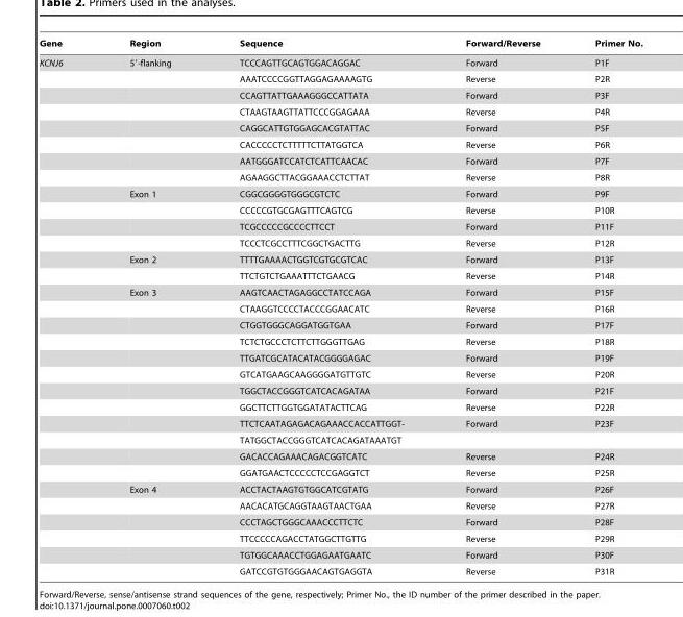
<table><thead><tr><td>Gene</td><td>Region</td><td>Sequence</td><td>Forward/Reverse</td><td>Primer No.</td></tr></thead><tbody><tr><td rowspan="32">KCNJ6</td><td>5′-flanking</td><td>TCCCAGTTGCAGTGGACAGGAC</td><td>Forward</td><td>P1F</td></tr><tr><td></td><td>AAATCCCCGGTTAGGAGAAAAGTG</td><td>Reverse</td><td>P2R</td></tr><tr><td></td><td>CCAGTTATTGAAAGGGCCATTATA</td><td>Forward</td><td>P3F</td></tr><tr><td></td><td>CTAAGTAAGTTATTCCCGGAGAAA</td><td>Reverse</td><td>P4R</td></tr><tr><td></td><td>CAGGCATTGTGGAGCACGTATTAC</td><td>Forward</td><td>P5F</td></tr><tr><td></td><td>CACCCCCTCTTTTTCTTATGGTCA</td><td>Reverse</td><td>P6R</td></tr><tr><td></td><td>AATGGGATCCATCTCATTCAACAC</td><td>Forward</td><td>P7F</td></tr><tr><td></td><td>AGAAGGCTTACGGAAACCTCTTAT</td><td>Reverse</td><td>P8R</td></tr><tr><td>Exon 1</td><td>CGGCGGGGTGGGCGTCTC</td><td>Forward</td><td>P9F</td></tr><tr><td></td><td>CCCCCGTGCGAGTTTCAGTCG</td><td>Reverse</td><td>P10R</td></tr><tr><td></td><td>TCGCCCCCGCCCCTTCCT</td><td>Forward</td><td>P11F</td></tr><tr><td></td><td>TCCCTCGCCTTTCGGCTGACTTG</td><td>Reverse</td><td>P12R</td></tr><tr><td>Exon 2</td><td>TTTTGAAAACTGGTCGTGCGTCAC</td><td>Forward</td><td>P13F</td></tr><tr><td></td><td>TTCTGTCTGAAATTTCTGAACG</td><td>Reverse</td><td>P14R</td></tr><tr><td>Exon 3</td><td>AAGTCAACTAGAGGCCTATCCAGA</td><td>Forward</td><td>P15F</td></tr><tr><td></td><td>CTAAGGTCCCCTACCCGGAACATC</td><td>Reverse</td><td>P16R</td></tr><tr><td></td><td>CTGGTGGGCAGGATGGTGAA</td><td>Forward</td><td>P17F</td></tr><tr><td></td><td>TCTCTGCCCTCTTCTTGGGTTGAG</td><td>Reverse</td><td>P18R</td></tr><tr><td></td><td>TTGATCGCATACATACGGGGAGAC</td><td>Forward</td><td>P19F</td></tr><tr><td></td><td>GTCATGAAGCAAGGGGATGTTGTC</td><td>Reverse</td><td>P20R</td></tr><tr><td></td><td>TGGCTACCGGGTCATCACAGATAA</td><td>Forward</td><td>P21F</td></tr><tr><td></td><td>GGCTTCTTGGTGGATATACTTCAG</td><td>Reverse</td><td>P22R</td></tr><tr><td></td><td>TTCTCAATAGAGACAGAAACCACCATTGGT-</td><td>Forward</td><td>P23F</td></tr><tr><td></td><td>TATGGCTACCGGGTCATCACAGATAAATGT</td><td></td><td></td></tr><tr><td></td><td>GACACCAGAAACAGACGGTCATC</td><td>Reverse</td><td>P24R</td></tr><tr><td></td><td>GGATGAACTCCCCCTCCGAGGTCT</td><td>Reverse</td><td>P25R</td></tr><tr><td>Exon 4</td><td>ACCTACTAAGTGTGGCATCGTATG</td><td>Forward</td><td>P26F</td></tr><tr><td></td><td>AACACATGCAGGTAAGTAACTGAA</td><td>Reverse</td><td>P27R</td></tr><tr><td></td><td>CCCTAGCTGGGCAAACCCTTCTC</td><td>Forward</td><td>P28F</td></tr><tr><td></td><td>TTCCCCCAGACCTATGGCTTGTTG</td><td>Reverse</td><td>P29R</td></tr><tr><td></td><td>TGTGGCAAACCTGGAGAATGAATC</td><td>Forward</td><td>P30F</td></tr><tr><td></td><td>GATCCGTGTGGGAACAGTGAGGTA</td><td>Reverse</td><td>P31R</td></tr></tbody></table>